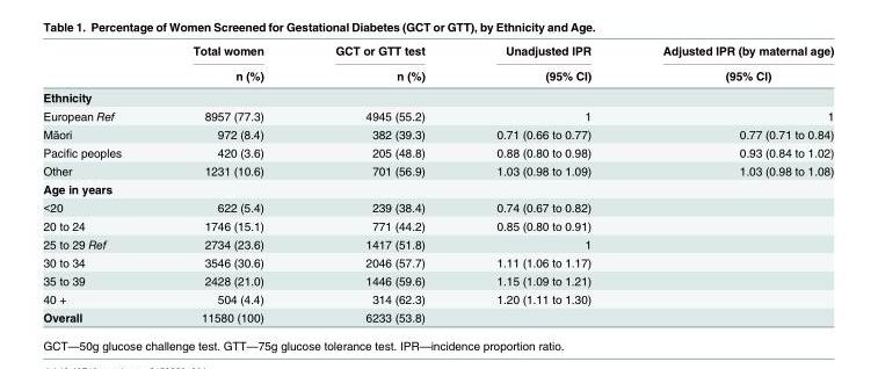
<table><thead><tr><td rowspan="2"></td><td rowspan="2">Total women n (%)</td><td rowspan="2">GCT or GTT test n (%)</td><td rowspan="2">Unadjusted IPR (95% CI)</td><td rowspan="2">Adjusted IPR (by maternal age) (95% CI)</td></tr><tr></tr></thead><tbody><tr><td colspan="5">Ethnicity</td></tr><tr><td>European Ref</td><td>8957 (77.3)</td><td>4945 (55.2)</td><td>1</td><td>1</td></tr><tr><td>Māori</td><td>972 (8.4)</td><td>382 (39.3)</td><td>0.71 (0.66 to 0.77)</td><td>0.77 (0.71 to 0.84)</td></tr><tr><td>Pacific peoples</td><td>420 (3.6)</td><td>205 (48.8)</td><td>0.88 (0.80 to 0.98)</td><td>0.93 (0.84 to 1.02)</td></tr><tr><td>Other</td><td>1231 (10.6)</td><td>701 (56.9)</td><td>1.03 (0.98 to 1.09)</td><td>1.03 (0.98 to 1.08)</td></tr><tr><td colspan="5">Age in years</td></tr><tr><td>&lt;20</td><td>622 (5.4)</td><td>239 (38.4)</td><td>0.74 (0.67 to 0.82)</td><td></td></tr><tr><td>20 to 24</td><td>1746 (15.1)</td><td>771 (44.2)</td><td>0.85 (0.80 to 0.91)</td><td></td></tr><tr><td>25 to 29 Ref</td><td>2734 (23.6)</td><td>1417 (51.8)</td><td>1</td><td></td></tr><tr><td>30 to 34</td><td>3546 (30.6)</td><td>2046 (57.7)</td><td>1.11 (1.06 to 1.17)</td><td></td></tr><tr><td>35 to 39</td><td>2428 (21.0)</td><td>1446 (59.6)</td><td>1.15 (1.09 to 1.21)</td><td></td></tr><tr><td>40 +</td><td>504 (4.4)</td><td>314 (62.3)</td><td>1.20 (1.11 to 1.30)</td><td></td></tr><tr><td>Overall</td><td>11580 (100)</td><td>6233 (53.8)</td><td></td><td></td></tr></tbody></table>